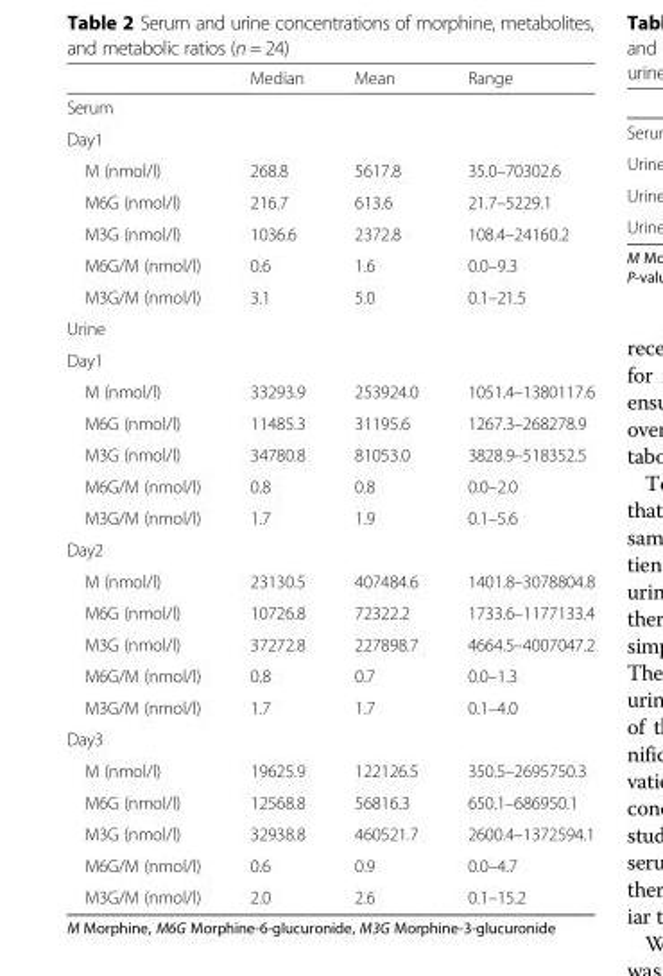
<table><thead><tr><td></td><td>Median</td><td>Mean</td><td>Range</td></tr></thead><tbody><tr><td colspan="4">Serum</td></tr><tr><td colspan="4">Day1</td></tr><tr><td>M (nmol/l)</td><td>268.8</td><td>5617.8</td><td>35.0–70302.6</td></tr><tr><td>M6G (nmol/l)</td><td>216.7</td><td>613.6</td><td>21.7–5229.1</td></tr><tr><td>M3G (nmol/l)</td><td>1036.6</td><td>2372.8</td><td>108.4–24160.2</td></tr><tr><td>M6G/M (nmol/l)</td><td>0.6</td><td>1.6</td><td>0.0–9.3</td></tr><tr><td>M3G/M (nmol/l)</td><td>3.1</td><td>5.0</td><td>0.1–21.5</td></tr><tr><td colspan="4">Urine</td></tr><tr><td colspan="4">Day1</td></tr><tr><td>M (nmol/l)</td><td>33293.9</td><td>253924.0</td><td>1051.4–1380117.6</td></tr><tr><td>M6G (nmol/l)</td><td>11485.3</td><td>31195.6</td><td>1267.3–268278.9</td></tr><tr><td>M3G (nmol/l)</td><td>34780.8</td><td>81053.0</td><td>3828.9–518352.5</td></tr><tr><td>M6G/M (nmol/l)</td><td>0.8</td><td>0.8</td><td>0.0–2.0</td></tr><tr><td>M3G/M (nmol/l)</td><td>1.7</td><td>1.9</td><td>0.1–5.6</td></tr><tr><td colspan="4">Day2</td></tr><tr><td>M (nmol/l)</td><td>23130.5</td><td>407484.6</td><td>1401.8–3078804.8</td></tr><tr><td>M6G (nmol/l)</td><td>10726.8</td><td>72322.2</td><td>1733.6–1177133.4</td></tr><tr><td>M3G (nmol/l)</td><td>37272.8</td><td>227898.7</td><td>4664.5–4007047.2</td></tr><tr><td>M6G/M (nmol/l)</td><td>0.8</td><td>0.7</td><td>0.0–1.3</td></tr><tr><td>M3G/M (nmol/l)</td><td>1.7</td><td>1.7</td><td>0.1–4.0</td></tr><tr><td colspan="4">Day3</td></tr><tr><td>M (nmol/l)</td><td>19625.9</td><td>122126.5</td><td>350.5–2695750.3</td></tr><tr><td>M6G (nmol/l)</td><td>12568.8</td><td>56816.3</td><td>650.1–686950.1</td></tr><tr><td>M3G (nmol/l)</td><td>32938.8</td><td>460521.7</td><td>2600.4–1372594.1</td></tr><tr><td>M6G/M (nmol/l)</td><td>0.6</td><td>0.9</td><td>0.0–4.7</td></tr><tr><td>M3G/M (nmol/l)</td><td>2.0</td><td>2.6</td><td>0.1–15.2</td></tr></tbody></table>